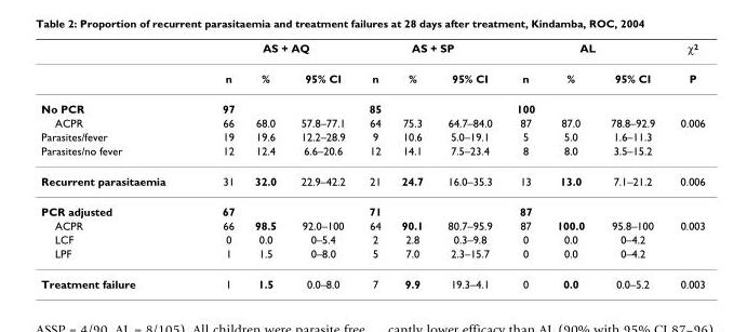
<table><thead><tr><td rowspan="2"></td><td colspan="3">AS + AQ</td><td colspan="3">AS + SP</td><td colspan="3">AL</td><td rowspan="2">χ<sup>2</sup> P</td></tr><tr><td>n</td><td>%</td><td>95% CI</td><td>n</td><td>%</td><td>95% CI</td><td>n</td><td>%</td><td>95% CI</td></tr></thead><tbody><tr><td>No PCR</td><td>97</td><td></td><td></td><td>85</td><td></td><td></td><td>100</td><td></td><td></td><td></td></tr><tr><td>ACPR</td><td>66</td><td>68.0</td><td>57.8–77.1</td><td>64</td><td>75.3</td><td>64.7–84.0</td><td>87</td><td>87.0</td><td>78.8–92.9</td><td>0.006</td></tr><tr><td>Parasites/fever</td><td>19</td><td>19.6</td><td>12.2–28.9</td><td>9</td><td>10.6</td><td>5.0–19.1</td><td>5</td><td>5.0</td><td>1.6–11.3</td><td></td></tr><tr><td>Parasites/no fever</td><td>12</td><td>12.4</td><td>6.6–20.6</td><td>12</td><td>14.1</td><td>7.5–23.4</td><td>8</td><td>8.0</td><td>3.5–15.2</td><td></td></tr><tr><td>Recurrent parasitaemia</td><td>31</td><td>32.0</td><td>22.9–42.2</td><td>21</td><td>24.7</td><td>16.0–35.3</td><td>13</td><td>13.0</td><td>7.1–21.2</td><td>0.006</td></tr><tr><td>PCR adjusted</td><td>67</td><td></td><td></td><td>71</td><td></td><td></td><td>87</td><td></td><td></td><td></td></tr><tr><td>ACPR</td><td>66</td><td>98.5</td><td>92.0–100</td><td>64</td><td>90.1</td><td>80.7–95.9</td><td>87</td><td>100.0</td><td>95.8–100</td><td>0.003</td></tr><tr><td>LCF</td><td>0</td><td>0.0</td><td>0–5.4</td><td>2</td><td>2.8</td><td>0.3–9.8</td><td>0</td><td>0.0</td><td>0–4.2</td><td></td></tr><tr><td>LPF</td><td>1</td><td>1.5</td><td>0–8.0</td><td>5</td><td>7.0</td><td>2.3–15.7</td><td>0</td><td>0.0</td><td>0–4.2</td><td></td></tr><tr><td>Treatment failure</td><td>1</td><td>1.5</td><td>0.0–8.0</td><td>7</td><td>9.9</td><td>19.3–4.1</td><td>0</td><td>0.0</td><td>0.0–5.2</td><td>0.003</td></tr></tbody></table>